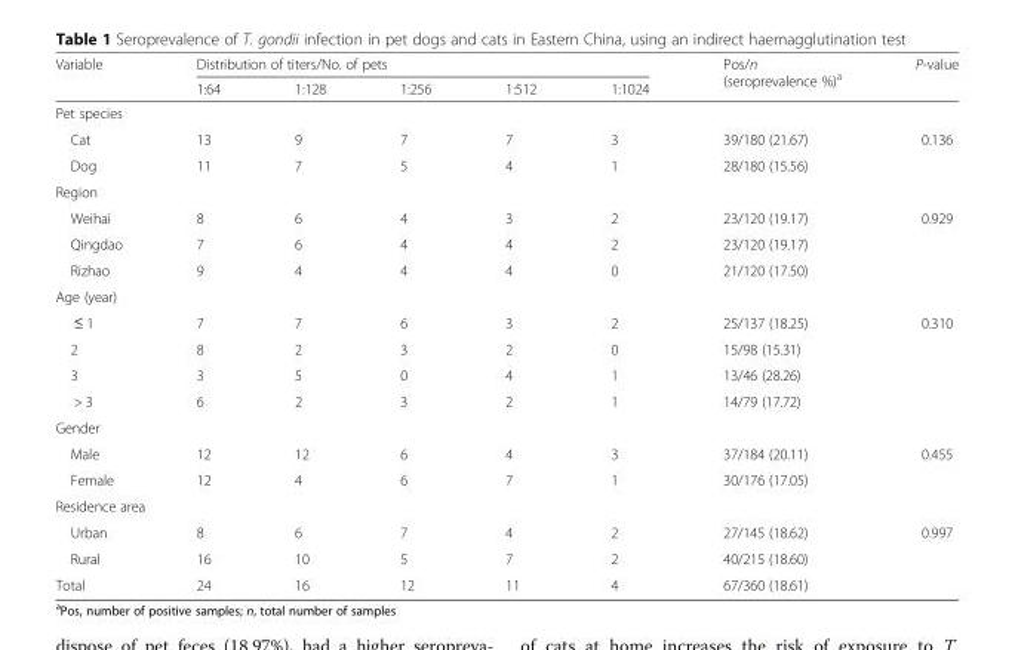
<table><thead><tr><td rowspan="2">Variable</td><td colspan="5">Distribution of titers/No. of pets</td><td rowspan="2">Pos/n (seroprevalence %)<sup>a</sup></td><td rowspan="2">P-value</td></tr><tr><td>1:64</td><td>1:128</td><td>1:256</td><td>1:512</td><td>1:1024</td></tr></thead><tbody><tr><td colspan="8">Pet species</td></tr><tr><td>Cat</td><td>13</td><td>9</td><td>7</td><td>7</td><td>3</td><td>39/180 (21.67)</td><td>0.136</td></tr><tr><td>Dog</td><td>11</td><td>7</td><td>5</td><td>4</td><td>1</td><td>28/180 (15.56)</td><td></td></tr><tr><td colspan="8">Region</td></tr><tr><td>Weihai</td><td>8</td><td>6</td><td>4</td><td>3</td><td>2</td><td>23/120 (19.17)</td><td>0.929</td></tr><tr><td>Qingdao</td><td>7</td><td>6</td><td>4</td><td>4</td><td>2</td><td>23/120 (19.17)</td><td></td></tr><tr><td>Rizhao</td><td>9</td><td>4</td><td>4</td><td>4</td><td>0</td><td>21/120 (17.50)</td><td></td></tr><tr><td colspan="8">Age (year)</td></tr><tr><td>≤ 1</td><td>7</td><td>7</td><td>6</td><td>3</td><td>2</td><td>25/137 (18.25)</td><td>0.310</td></tr><tr><td>2</td><td>8</td><td>2</td><td>3</td><td>2</td><td>0</td><td>15/98 (15.31)</td><td></td></tr><tr><td>3</td><td>3</td><td>5</td><td>0</td><td>4</td><td>1</td><td>13/46 (28.26)</td><td></td></tr><tr><td>&gt; 3</td><td>6</td><td>2</td><td>3</td><td>2</td><td>1</td><td>14/79 (17.72)</td><td></td></tr><tr><td colspan="8">Gender</td></tr><tr><td>Male</td><td>12</td><td>12</td><td>6</td><td>4</td><td>3</td><td>37/184 (20.11)</td><td>0.455</td></tr><tr><td>Female</td><td>12</td><td>4</td><td>6</td><td>7</td><td>1</td><td>30/176 (17.05)</td><td></td></tr><tr><td colspan="8">Residence area</td></tr><tr><td>Urban</td><td>8</td><td>6</td><td>7</td><td>4</td><td>2</td><td>27/145 (18.62)</td><td>0.997</td></tr><tr><td>Rural</td><td>16</td><td>10</td><td>5</td><td>7</td><td>2</td><td>40/215 (18.60)</td><td></td></tr><tr><td>Total</td><td>24</td><td>16</td><td>12</td><td>11</td><td>4</td><td>67/360 (18.61)</td><td></td></tr></tbody></table>